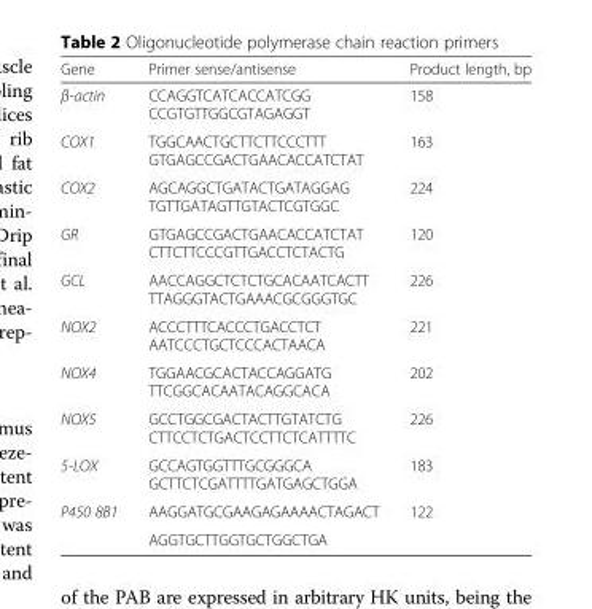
<table><thead><tr><td>Gene</td><td>Primer sense/antisense</td><td>Product length, bp</td></tr></thead><tbody><tr><td>β-actin</td><td>CCAGGTCATCACCATCGG CCGTGTTGGCGTAGAGGT</td><td>158</td></tr><tr><td>COX1</td><td>TGGCAACTGCTTCTTCCCTTT GTGAGCCGACTGAACACCATCTAT</td><td>163</td></tr><tr><td>COX2</td><td>AGCAGGCTGATACTGATAGGAG TGTTGATAGTTGTACTCGTGGC</td><td>224</td></tr><tr><td>GR</td><td>GTGAGCCGACTGAACACCATCTAT CTTCTTCCCGTTGACCTCTACTG</td><td>120</td></tr><tr><td>GCL</td><td>AACCAGGCTCTCTGCACAATCACTT TTAGGGTACTGAAACGCGGGTGC</td><td>226</td></tr><tr><td>NOX2</td><td>ACCCTTTCACCCTGACCTCT AATCCCTGCTCCCACTAACA</td><td>221</td></tr><tr><td>NOX4</td><td>TGGAACGCACTACCAGGATG TTCGGCACAATACAGGCACA</td><td>202</td></tr><tr><td>NOX5</td><td>GCCTGGCGACTACTTGTATCTG CTTCCTCTGACTCCTTCTCATTTTC</td><td>226</td></tr><tr><td>5-LOX</td><td>GCCAGTGGTTTGCGGGCA GCTTCTCGATTTTGATGAGCTGGA</td><td>183</td></tr><tr><td rowspan="2">P450 8B1</td><td>AAGGATGCGAAGAGAAAACTAGACT</td><td rowspan="2">122</td></tr><tr><td>AGGTGCTTGGTGCTGGCTGA</td></tr></tbody></table>